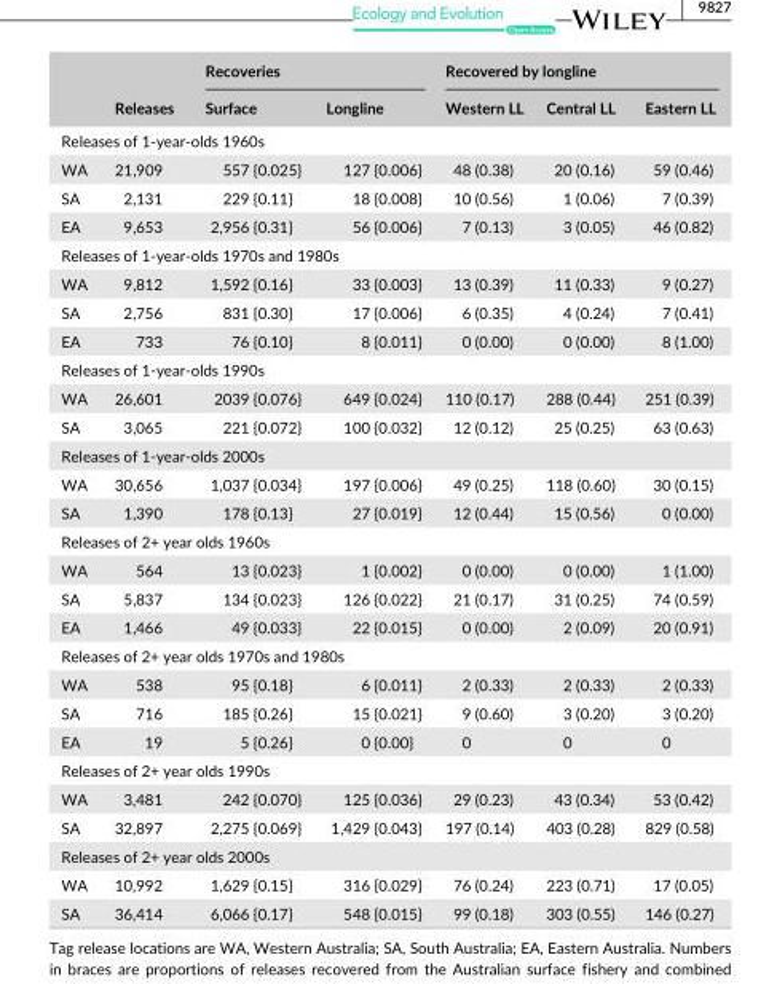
<table><thead><tr><td rowspan="2"></td><td rowspan="2">Releases</td><td colspan="2">Recoveries</td><td colspan="3">Recovered by longline</td></tr><tr><td>Surface</td><td>Longline</td><td>Western LL</td><td>Central LL</td><td>Eastern LL</td></tr></thead><tbody><tr><td colspan="7">Releases of 1- year- olds 1960s</td></tr><tr><td>WA</td><td>21,909</td><td>557 {0.025}</td><td>127 {0.006}</td><td>48 (0.38)</td><td>20 (0.16)</td><td>59 (0.46)</td></tr><tr><td>SA</td><td>2,131</td><td>229 {0.11}</td><td>18 {0.008}</td><td>10 (0.56)</td><td>1 (0.06)</td><td>7 (0.39)</td></tr><tr><td>EA</td><td>9,653</td><td>2,956 {0.31}</td><td>56 {0.006}</td><td>7 (0.13)</td><td>3 (0.05)</td><td>46 (0.82)</td></tr><tr><td colspan="7">Releases of 1- year- olds 1970s and 1980s</td></tr><tr><td>WA</td><td>9,812</td><td>1,592 {0.16}</td><td>33 {0.003}</td><td>13 (0.39)</td><td>11 (0.33)</td><td>9 (0.27)</td></tr><tr><td>SA</td><td>2,756</td><td>831 {0.30}</td><td>17 {0.006}</td><td>6 (0.35)</td><td>4 (0.24)</td><td>7 (0.41)</td></tr><tr><td>EA</td><td>733</td><td>76 {0.10}</td><td>8 {0.011}</td><td>0 (0.00)</td><td>0 (0.00)</td><td>8 (1.00)</td></tr><tr><td colspan="7">Releases of 1- year- olds 1990s</td></tr><tr><td>WA</td><td>26,601</td><td>2039 {0.076}</td><td>649 {0.024}</td><td>110 (0.17)</td><td>288 (0.44)</td><td>251 (0.39)</td></tr><tr><td>SA</td><td>3,065</td><td>221 {0.072}</td><td>100 {0.032}</td><td>12 (0.12)</td><td>25 (0.25)</td><td>63 (0.63)</td></tr><tr><td colspan="7">Releases of 1- year- olds 2000s</td></tr><tr><td>WA</td><td>30,656</td><td>1,037 {0.034}</td><td>197 {0.006}</td><td>49 (0.25)</td><td>118 (0.60)</td><td>30 (0.15)</td></tr><tr><td>SA</td><td>1,390</td><td>178 {0.13}</td><td>27 {0.019}</td><td>12 (0.44)</td><td>15 (0.56)</td><td>0 (0.00)</td></tr><tr><td colspan="7">Releases of 2+ year olds 1960s</td></tr><tr><td>WA</td><td>564</td><td>13 {0.023}</td><td>1 {0.002}</td><td>0 (0.00)</td><td>0 (0.00)</td><td>1 (1.00)</td></tr><tr><td>SA</td><td>5,837</td><td>134 {0.023}</td><td>126 {0.022}</td><td>21 (0.17)</td><td>31 (0.25)</td><td>74 (0.59)</td></tr><tr><td>EA</td><td>1,466</td><td>49 {0.033}</td><td>22 {0.015}</td><td>0 (0.00)</td><td>2 (0.09)</td><td>20 (0.91)</td></tr><tr><td colspan="7">Releases of 2+ year olds 1970s and 1980s</td></tr><tr><td>WA</td><td>538</td><td>95 {0.18}</td><td>6 {0.011}</td><td>2 (0.33)</td><td>2 (0.33)</td><td>2 (0.33)</td></tr><tr><td>SA</td><td>716</td><td>185 {0.26}</td><td>15 {0.021}</td><td>9 (0.60)</td><td>3 (0.20)</td><td>3 (0.20)</td></tr><tr><td>EA</td><td>19</td><td>5 {0.26}</td><td>0 {0.00}</td><td>0</td><td>0</td><td>0</td></tr><tr><td colspan="7">Releases of 2+ year olds 1990s</td></tr><tr><td>WA</td><td>3,481</td><td>242 {0.070}</td><td>125 {0.036}</td><td>29 (0.23)</td><td>43 (0.34)</td><td>53 (0.42)</td></tr><tr><td>SA</td><td>32,897</td><td>2,275 {0.069}</td><td>1,429 {0.043}</td><td>197 (0.14)</td><td>403 (0.28)</td><td>829 (0.58)</td></tr><tr><td colspan="7">Releases of 2+ year olds 2000s</td></tr><tr><td>WA</td><td>10,992</td><td>1,629 {0.15}</td><td>316 {0.029}</td><td>76 (0.24)</td><td>223 (0.71)</td><td>17 (0.05)</td></tr><tr><td>SA</td><td>36,414</td><td>6,066 {0.17}</td><td>548 {0.015}</td><td>99 (0.18)</td><td>303 (0.55)</td><td>146 (0.27)</td></tr></tbody></table>